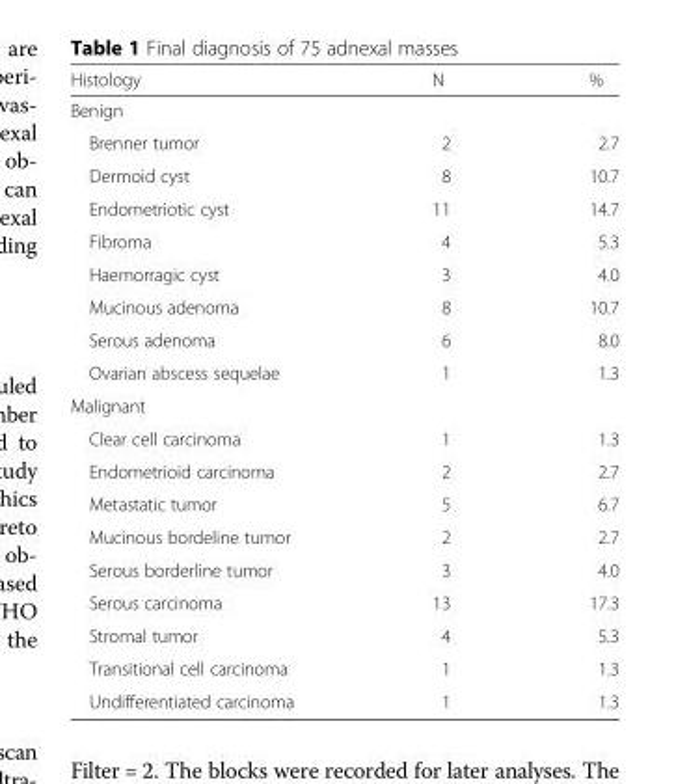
<table><thead><tr><td>Histology</td><td>N</td><td>%</td></tr></thead><tbody><tr><td colspan="3">Benign</td></tr><tr><td>Brenner tumor</td><td>2</td><td>2.7</td></tr><tr><td>Dermoid cyst</td><td>8</td><td>10.7</td></tr><tr><td>Endometriotic cyst</td><td>11</td><td>14.7</td></tr><tr><td>Fibroma</td><td>4</td><td>5.3</td></tr><tr><td>Haemorragic cyst</td><td>3</td><td>4.0</td></tr><tr><td>Mucinous adenoma</td><td>8</td><td>10.7</td></tr><tr><td>Serous adenoma</td><td>6</td><td>8.0</td></tr><tr><td>Ovarian abscess sequelae</td><td>1</td><td>1.3</td></tr><tr><td colspan="3">Malignant</td></tr><tr><td>Clear cell carcinoma</td><td>1</td><td>1.3</td></tr><tr><td>Endometrioid carcinoma</td><td>2</td><td>2.7</td></tr><tr><td>Metastatic tumor</td><td>5</td><td>6.7</td></tr><tr><td>Mucinous bordeline tumor</td><td>2</td><td>2.7</td></tr><tr><td>Serous borderline tumor</td><td>3</td><td>4.0</td></tr><tr><td>Serous carcinoma</td><td>13</td><td>17.3</td></tr><tr><td>Stromal tumor</td><td>4</td><td>5.3</td></tr><tr><td>Transitional cell carcinoma</td><td>1</td><td>1.3</td></tr><tr><td>Undifferentiated carcinoma</td><td>1</td><td>1.3</td></tr></tbody></table>